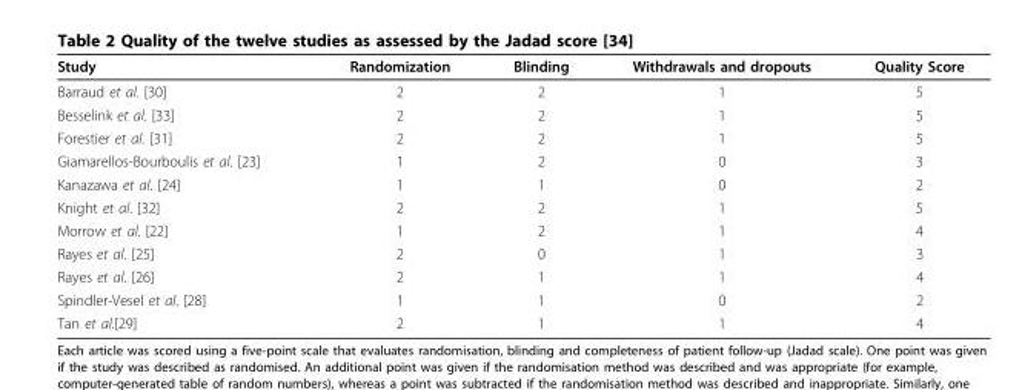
<table><thead><tr><td>Study</td><td>Randomization</td><td>Blinding</td><td>Withdrawals and dropouts</td><td>Quality Score</td></tr></thead><tbody><tr><td>Barraud et al. [30]</td><td>2</td><td>2</td><td>1</td><td>5</td></tr><tr><td>Besselink et al. [33]</td><td>2</td><td>2</td><td>1</td><td>5</td></tr><tr><td>Forestier et al. [31]</td><td>2</td><td>2</td><td>1</td><td>5</td></tr><tr><td>Giamarellos-Bourboulis et al. [23]</td><td>1</td><td>2</td><td>0</td><td>3</td></tr><tr><td>Kanazawa et al. [24]</td><td>1</td><td>1</td><td>0</td><td>2</td></tr><tr><td>Knight et al. [32]</td><td>2</td><td>2</td><td>1</td><td>5</td></tr><tr><td>Morrow et al. [22]</td><td>1</td><td>2</td><td>1</td><td>4</td></tr><tr><td>Rayes et al. [25]</td><td>2</td><td>0</td><td>1</td><td>3</td></tr><tr><td>Rayes et al. [26]</td><td>2</td><td>1</td><td>1</td><td>4</td></tr><tr><td>Spindler-Vesel et al. [28]</td><td>1</td><td>1</td><td>0</td><td>2</td></tr><tr><td>Tan et al.[29]</td><td>2</td><td>1</td><td>1</td><td>4</td></tr></tbody></table>